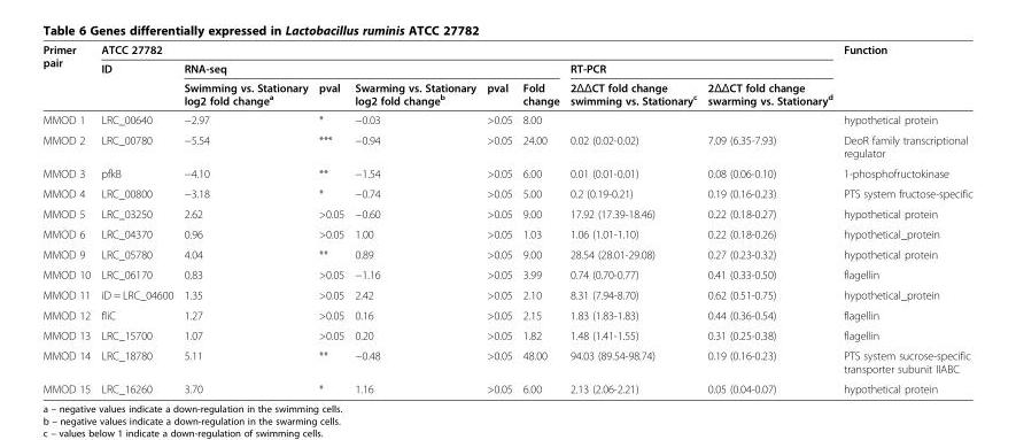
<table><thead><tr><td rowspan="3">Primer pair</td><td colspan="8">ATCC 27782</td><td rowspan="3">Function</td></tr><tr><td rowspan="2">ID</td><td colspan="5">RNA-seq</td><td colspan="2">RT-PCR</td></tr><tr><td>Swimming vs. Stationary log2 fold change<sup>a</sup></td><td>pval</td><td>Swarming vs. Stationary log2 fold change<sup>b</sup></td><td>pval</td><td>Fold change</td><td>2ΔΔCT fold change swimming vs. Stationary<sup>c</sup></td><td>2ΔΔCT fold change swarming vs. Stationary<sup>d</sup></td></tr></thead><tbody><tr><td>MMOD 1</td><td>LRC_00640</td><td>−2.97</td><td>*</td><td>−0.03</td><td>&gt;0.05</td><td>8.00</td><td></td><td></td><td>hypothetical protein</td></tr><tr><td>MMOD 2</td><td>LRC_00780</td><td>−5.54</td><td>***</td><td>−0.94</td><td>&gt;0.05</td><td>24.00</td><td>0.02 (0.02-0.02)</td><td>7.09 (6.35-7.93)</td><td>DeoR family transcriptional regulator</td></tr><tr><td>MMOD 3</td><td>pfkB</td><td>−4.10</td><td>**</td><td>−1.54</td><td>&gt;0.05</td><td>6.00</td><td>0.01 (0.01-0.01)</td><td>0.08 (0.06-0.10)</td><td>1-phosphofructokinase</td></tr><tr><td>MMOD 4</td><td>LRC_00800</td><td>−3.18</td><td>*</td><td>−0.74</td><td>&gt;0.05</td><td>5.00</td><td>0.2 (0.19-0.21)</td><td>0.19 (0.16-0.23)</td><td>PTS system fructose-specific</td></tr><tr><td>MMOD 5</td><td>LRC_03250</td><td>2.62</td><td>&gt;0.05</td><td>−0.60</td><td>&gt;0.05</td><td>9.00</td><td>17.92 (17.39-18.46)</td><td>0.22 (0.18-0.27)</td><td>hypothetical protein</td></tr><tr><td>MMOD 6</td><td>LRC_04370</td><td>0.96</td><td>&gt;0.05</td><td>1.00</td><td>&gt;0.05</td><td>1.03</td><td>1.06 (1.01-1.10)</td><td>0.22 (0.18-0.26)</td><td>hypothetical_protein</td></tr><tr><td>MMOD 9</td><td>LRC_05780</td><td>4.04</td><td>**</td><td>0.89</td><td>&gt;0.05</td><td>9.00</td><td>28.54 (28.01-29.08)</td><td>0.27 (0.23-0.32)</td><td>hypothetical protein</td></tr><tr><td>MMOD 10</td><td>LRC_06170</td><td>0.83</td><td>&gt;0.05</td><td>−1.16</td><td>&gt;0.05</td><td>3.99</td><td>0.74 (0.70-0.77)</td><td>0.41 (0.33-0.50)</td><td>flagellin</td></tr><tr><td>MMOD 11</td><td>iD = LRC_04600</td><td>1.35</td><td>&gt;0.05</td><td>2.42</td><td>&gt;0.05</td><td>2.10</td><td>8.31 (7.94-8.70)</td><td>0.62 (0.51-0.75)</td><td>hypothetical_protein</td></tr><tr><td>MMOD 12</td><td>fliC</td><td>1.27</td><td>&gt;0.05</td><td>0.16</td><td>&gt;0.05</td><td>2.15</td><td>1.83 (1.83-1.83)</td><td>0.44 (0.36-0.54)</td><td>flagellin</td></tr><tr><td>MMOD 13</td><td>LRC_15700</td><td>1.07</td><td>&gt;0.05</td><td>0.20</td><td>&gt;0.05</td><td>1.82</td><td>1.48 (1.41-1.55)</td><td>0.31 (0.25-0.38)</td><td>flagellin</td></tr><tr><td>MMOD 14</td><td>LRC_18780</td><td>5.11</td><td>**</td><td>−0.48</td><td>&gt;0.05</td><td>48.00</td><td>94.03 (89.54-98.74)</td><td>0.19 (0.16-0.23)</td><td>PTS system sucrose-specific transporter subunit IIABC</td></tr><tr><td>MMOD 15</td><td>LRC_16260</td><td>3.70</td><td>*</td><td>1.16</td><td>&gt;0.05</td><td>6.00</td><td>2.13 (2.06-2.21)</td><td>0.05 (0.04-0.07)</td><td>hypothetical protein</td></tr></tbody></table>